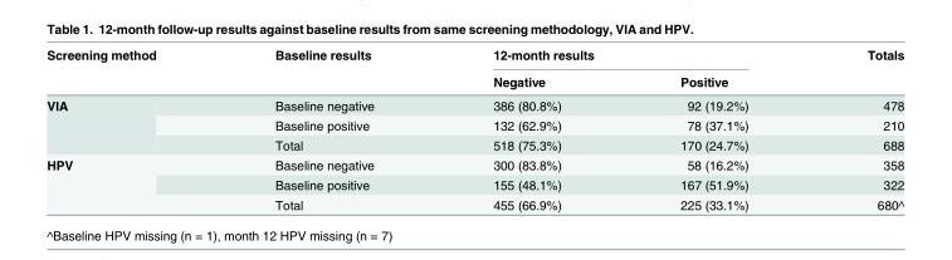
<table><thead><tr><td rowspan="2">Screening method</td><td rowspan="2">Baseline results</td><td colspan="2">12-month results</td><td rowspan="2">Totals</td></tr><tr><td>Negative</td><td>Positive</td></tr></thead><tbody><tr><td rowspan="3">VIA</td><td>Baseline negative</td><td>386 (80.8%)</td><td>92 (19.2%)</td><td>478</td></tr><tr><td>Baseline positive</td><td>132 (62.9%)</td><td>78 (37.1%)</td><td>210</td></tr><tr><td>Total</td><td>518 (75.3%)</td><td>170 (24.7%)</td><td>688</td></tr><tr><td rowspan="3">HPV</td><td>Baseline negative</td><td>300 (83.8%)</td><td>58 (16.2%)</td><td>358</td></tr><tr><td>Baseline positive</td><td>155 (48.1%)</td><td>167 (51.9%)</td><td>322</td></tr><tr><td>Total</td><td>455 (66.9%)</td><td>225 (33.1%)</td><td>680^</td></tr></tbody></table>